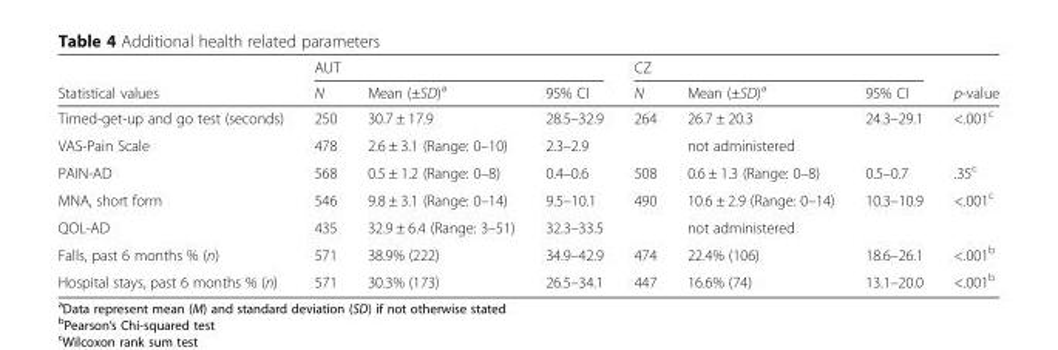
<table><thead><tr><td rowspan="2">Statistical values</td><td colspan="3">AUT</td><td colspan="3">CZ</td><td rowspan="2">p-value</td></tr><tr><td>N</td><td>Mean (±SD)<sup>a</sup></td><td>95% CI</td><td>N</td><td>Mean (±SD)<sup>a</sup></td><td>95% CI</td></tr></thead><tbody><tr><td>Timed-get-up and go test (seconds)</td><td>250</td><td>30.7 ± 17.9</td><td>28.5–32.9</td><td>264</td><td>26.7 ± 20.3</td><td>24.3–29.1</td><td>&lt;.001<sup>c</sup></td></tr><tr><td>VAS-Pain Scale</td><td>478</td><td>2.6 ± 3.1 (Range: 0–10)</td><td>2.3–2.9</td><td></td><td>not administered</td><td></td><td></td></tr><tr><td>PAIN-AD</td><td>568</td><td>0.5 ± 1.2 (Range: 0–8)</td><td>0.4–0.6</td><td>508</td><td>0.6 ± 1.3 (Range: 0–8)</td><td>0.5–0.7</td><td>.35<sup>c</sup></td></tr><tr><td>MNA, short form</td><td>546</td><td>9.8 ± 3.1 (Range: 0–14)</td><td>9.5–10.1</td><td>490</td><td>10.6 ± 2.9 (Range: 0–14)</td><td>10.3–10.9</td><td>&lt;.001<sup>c</sup></td></tr><tr><td>QOL-AD</td><td>435</td><td>32.9 ± 6.4 (Range: 3–51)</td><td>32.3–33.5</td><td></td><td>not administered</td><td></td><td></td></tr><tr><td>Falls, past 6 months % (n)</td><td>571</td><td>38.9% (222)</td><td>34.9–42.9</td><td>474</td><td>22.4% (106)</td><td>18.6–26.1</td><td>&lt;.001<sup>b</sup></td></tr><tr><td>Hospital stays, past 6 months % (n)</td><td>571</td><td>30.3% (173)</td><td>26.5–34.1</td><td>447</td><td>16.6% (74)</td><td>13.1–20.0</td><td>&lt;.001<sup>b</sup></td></tr></tbody></table>